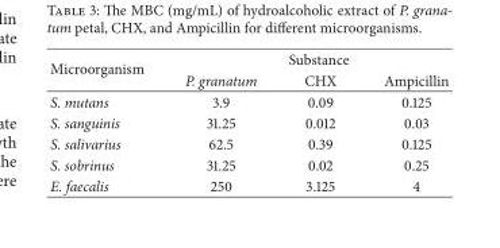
<table><thead><tr><td rowspan="2">Microorganism</td><td colspan="3">Substance</td></tr><tr><td>P. granatum</td><td>CHX</td><td>Ampicillin</td></tr></thead><tbody><tr><td>S. mutans</td><td>3.9</td><td>0.09</td><td>0.125</td></tr><tr><td>S. sanguinis</td><td>31.25</td><td>0.012</td><td>0.03</td></tr><tr><td>S. salivarius</td><td>62.5</td><td>0.39</td><td>0.125</td></tr><tr><td>S. sobrinus</td><td>31.25</td><td>0.02</td><td>0.25</td></tr><tr><td>E. faecalis</td><td>250</td><td>3.125</td><td>4</td></tr></tbody></table>